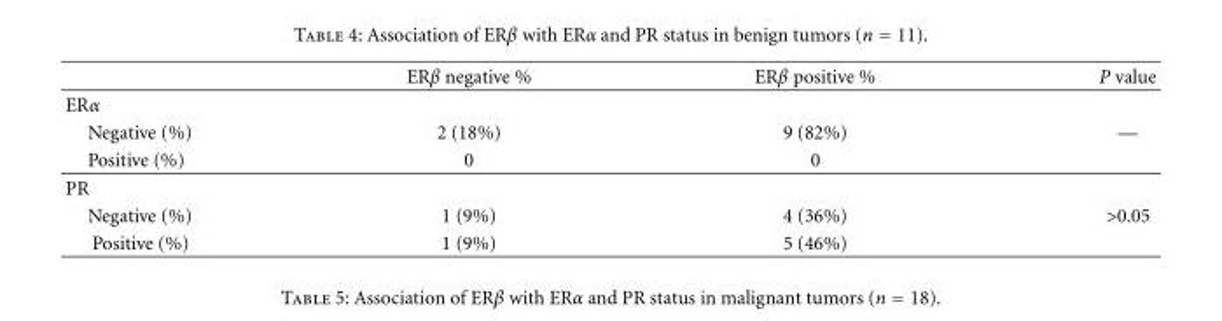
<table><thead><tr><td></td><td>ERβ negative %</td><td>ERβ positive %</td><td>P value</td></tr></thead><tbody><tr><td colspan="4">ERα</td></tr><tr><td>Negative (%)</td><td>2 (18%)</td><td>9 (82%)</td><td>—</td></tr><tr><td>Positive (%)</td><td>0</td><td>0</td><td></td></tr><tr><td colspan="4">PR</td></tr><tr><td>Negative (%)</td><td>1 (9%)</td><td>4 (36%)</td><td>&gt;0.05</td></tr><tr><td>Positive (%)</td><td>1 (9%)</td><td>5 (46%)</td><td></td></tr></tbody></table>